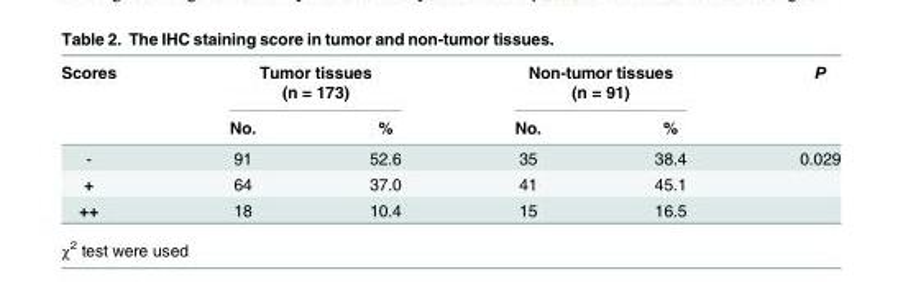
<table><thead><tr><td rowspan="2">Scores</td><td colspan="2">Tumor tissues (n = 173)</td><td colspan="2">Non-tumor tissues (n = 91)</td><td rowspan="2">P</td></tr><tr><td>No.</td><td>%</td><td>No.</td><td>%</td></tr></thead><tbody><tr><td>-</td><td>91</td><td>52.6</td><td>35</td><td>38.4</td><td>0.029</td></tr><tr><td>+</td><td>64</td><td>37.0</td><td>41</td><td>45.1</td><td></td></tr><tr><td>++</td><td>18</td><td>10.4</td><td>15</td><td>16.5</td><td></td></tr></tbody></table>